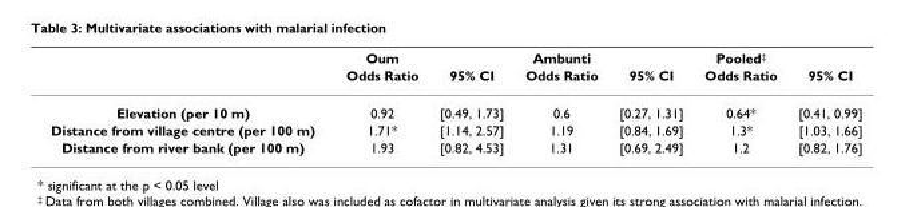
<table><thead><tr><td rowspan="2"></td><td rowspan="2">Oum Odds Ratio</td><td rowspan="2">95% CI</td><td rowspan="2">Ambunti Odds Ratio</td><td rowspan="2">95% CI</td><td rowspan="2">Pooled<sup>‡</sup> Odds Ratio</td><td rowspan="2">95% CI</td></tr><tr></tr></thead><tbody><tr><td>Elevation (per 10 m)</td><td>0.92</td><td>[0.49, 1.73]</td><td>0.6</td><td>[0.27, 1.31]</td><td>0.64*</td><td>[0.41, 0.99]</td></tr><tr><td>Distance from village centre (per 100 m)</td><td>1.71*</td><td>[1.14, 2.57]</td><td>1.19</td><td>[0.84, 1.69]</td><td>1.3*</td><td>[1.03, 1.66]</td></tr><tr><td>Distance from river bank (per 100 m)</td><td>1.93</td><td>[0.82, 4.53]</td><td>1.31</td><td>[0.69, 2.49]</td><td>1.2</td><td>[0.82, 1.76]</td></tr></tbody></table>